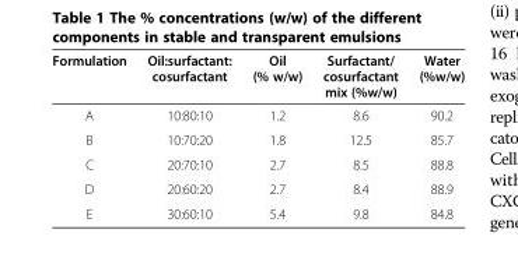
<table><thead><tr><td>Formulation</td><td>Oil:surfactant: cosurfactant</td><td>Oil (% w/w)</td><td>Surfactant/ cosurfactant mix (%w/w)</td><td>Water (%w/w)</td></tr></thead><tbody><tr><td>A</td><td>10:80:10</td><td>1.2</td><td>8.6</td><td>90.2</td></tr><tr><td>B</td><td>10:70:20</td><td>1.8</td><td>12.5</td><td>85.7</td></tr><tr><td>C</td><td>20:70:10</td><td>2.7</td><td>8.5</td><td>88.8</td></tr><tr><td>D</td><td>20:60:20</td><td>2.7</td><td>8.4</td><td>88.9</td></tr><tr><td>E</td><td>30:60:10</td><td>5.4</td><td>9.8</td><td>84.8</td></tr></tbody></table>